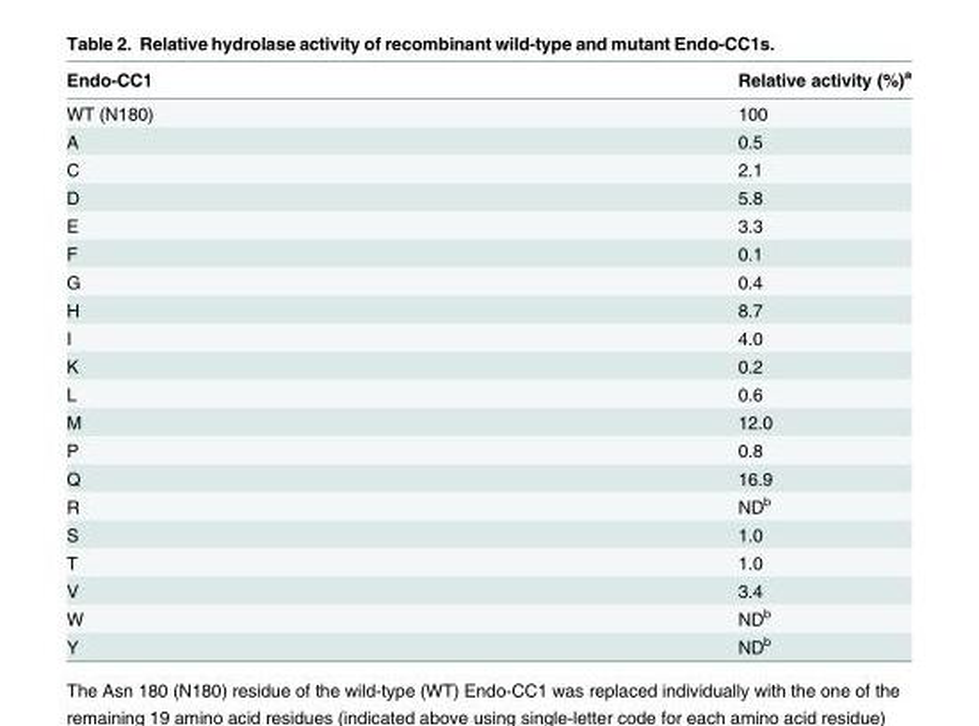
<table><thead><tr><td>Endo-CC1</td><td>Relative activity (%)<sup>a</sup></td></tr></thead><tbody><tr><td>WT (N180)</td><td>100</td></tr><tr><td>A</td><td>0.5</td></tr><tr><td>C</td><td>2.1</td></tr><tr><td>D</td><td>5.8</td></tr><tr><td>E</td><td>3.3</td></tr><tr><td>F</td><td>0.1</td></tr><tr><td>G</td><td>0.4</td></tr><tr><td>H</td><td>8.7</td></tr><tr><td>I</td><td>4.0</td></tr><tr><td>K</td><td>0.2</td></tr><tr><td>L</td><td>0.6</td></tr><tr><td>M</td><td>12.0</td></tr><tr><td>P</td><td>0.8</td></tr><tr><td>Q</td><td>16.9</td></tr><tr><td>R</td><td>ND<sup>b</sup></td></tr><tr><td>S</td><td>1.0</td></tr><tr><td>T</td><td>1.0</td></tr><tr><td>V</td><td>3.4</td></tr><tr><td>W</td><td>ND<sup>b</sup></td></tr><tr><td>Y</td><td>ND<sup>b</sup></td></tr></tbody></table>